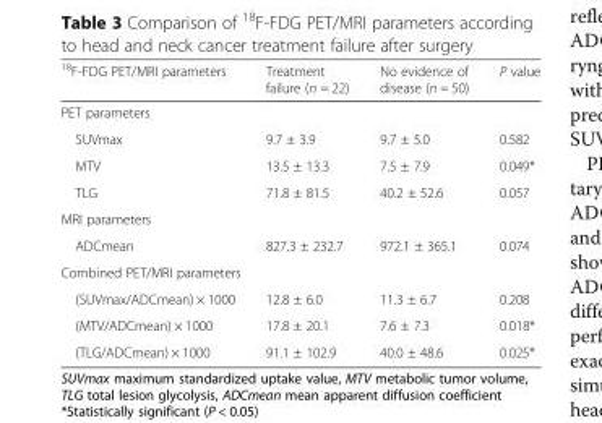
<table><thead><tr><td><sup>18</sup>F-FDG PET/MRI parameters</td><td>Treatment failure (n = 22)</td><td>No evidence of disease (n = 50)</td><td>P value</td></tr></thead><tbody><tr><td colspan="4">PET parameters</td></tr><tr><td>SUVmax</td><td>9.7 ± 3.9</td><td>9.7 ± 5.0</td><td>0.582</td></tr><tr><td>MTV</td><td>13.5 ± 13.3</td><td>7.5 ± 7.9</td><td>0.049*</td></tr><tr><td>TLG</td><td>71.8 ± 81.5</td><td>40.2 ± 52.6</td><td>0.057</td></tr><tr><td colspan="4">MRI parameters</td></tr><tr><td>ADCmean</td><td>827.3 ± 232.7</td><td>972.1 ± 365.1</td><td>0.074</td></tr><tr><td colspan="4">Combined PET/MRI parameters</td></tr><tr><td>(SUVmax/ADCmean) × 1000</td><td>12.8 ± 6.0</td><td>11.3 ± 6.7</td><td>0.208</td></tr><tr><td>(MTV/ADCmean) × 1000</td><td>17.8 ± 20.1</td><td>7.6 ± 7.3</td><td>0.018*</td></tr><tr><td>(TLG/ADCmean) × 1000</td><td>91.1 ± 102.9</td><td>40.0 ± 48.6</td><td>0.025*</td></tr></tbody></table>